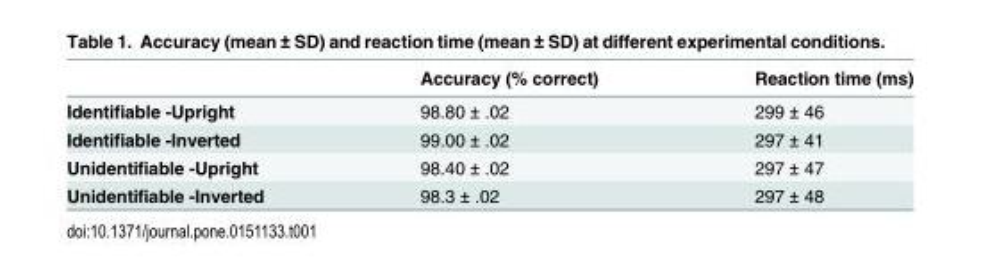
<table><thead><tr><td></td><td>Accuracy (% correct)</td><td>Reaction time (ms)</td></tr></thead><tbody><tr><td>Identifiable -Upright</td><td>98.80 ± .02</td><td>299 ± 46</td></tr><tr><td>Identifiable -Inverted</td><td>99.00 ± .02</td><td>297 ± 41</td></tr><tr><td>Unidentifiable -Upright</td><td>98.40 ± .02</td><td>297 ± 47</td></tr><tr><td>Unidentifiable -Inverted</td><td>98.3 ± .02</td><td>297 ± 48</td></tr></tbody></table>